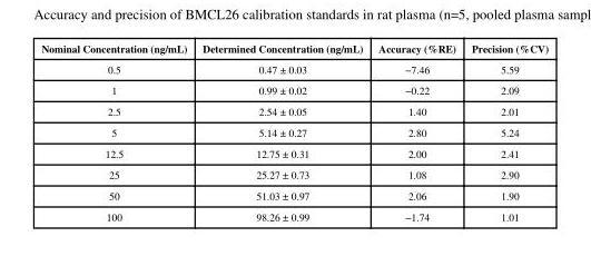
<table><thead><tr><td>Nominal Concentration (ng/mL)</td><td>Determined Concentration (ng/mL)</td><td>Accuracy (%RE)</td><td>Precision (%CV)</td></tr></thead><tbody><tr><td>0.5</td><td>0.47 ± 0.03</td><td>−7.46</td><td>5.59</td></tr><tr><td>1</td><td>0.99 ± 0.02</td><td>−0.22</td><td>2.09</td></tr><tr><td>2.5</td><td>2.54 ± 0.05</td><td>1.40</td><td>2.01</td></tr><tr><td>5</td><td>5.14 ± 0.27</td><td>2.80</td><td>5.24</td></tr><tr><td>12.5</td><td>12.75 ± 0.31</td><td>2.00</td><td>2.41</td></tr><tr><td>25</td><td>25.27 ± 0.73</td><td>1.08</td><td>2.90</td></tr><tr><td>50</td><td>51.03 ± 0.97</td><td>2.06</td><td>1.90</td></tr><tr><td>100</td><td>98.26 ± 0.99</td><td>−1.74</td><td>1.01</td></tr></tbody></table>